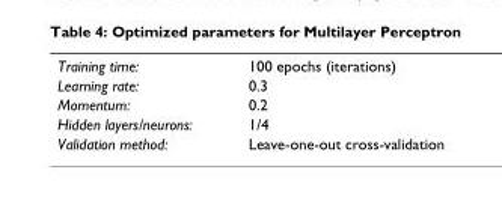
<table><tbody><tr><td>Training time:</td><td>100 epochs (iterations)</td></tr><tr><td>Learning rate:</td><td>0.3</td></tr><tr><td>Momentum:</td><td>0.2</td></tr><tr><td>Hidden layers/neurons:</td><td>1/4</td></tr><tr><td>Validation method:</td><td>Leave-one-out cross-validation</td></tr></tbody></table>